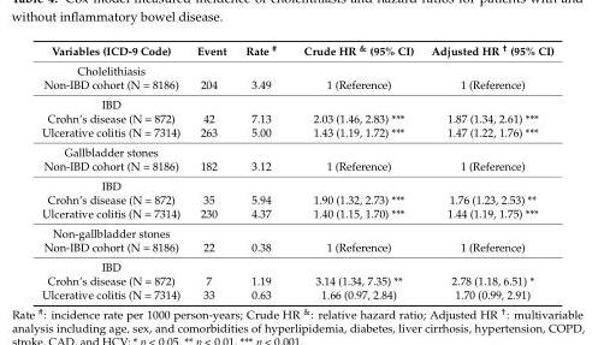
<table><thead><tr><td>Variables (ICD-9 Code)</td><td>Event</td><td>Rate <sup>#</sup></td><td>Crude HR <sup>&amp;</sup> (95% CI)</td><td>Adjusted HR <sup>†</sup> (95% CI)</td></tr></thead><tbody><tr><td colspan="5">Cholelithiasis</td></tr><tr><td>Non-IBD cohort (N = 8186)</td><td>204</td><td>3.49</td><td>1 (Reference)</td><td>1 (Reference)</td></tr><tr><td colspan="5">IBD</td></tr><tr><td>Crohn’s disease (N = 872)</td><td>42</td><td>7.13</td><td>2.03 (1.46, 2.83) ***</td><td>1.87 (1.34, 2.61) ***</td></tr><tr><td>Ulcerative colitis (N = 7314)</td><td>263</td><td>5.00</td><td>1.43 (1.19, 1.72) ***</td><td>1.47 (1.22, 1.76) ***</td></tr><tr><td colspan="5">Gallbladder stones</td></tr><tr><td>Non-IBD cohort (N = 8186)</td><td>182</td><td>3.12</td><td>1 (Reference)</td><td>1 (Reference)</td></tr><tr><td colspan="5">IBD</td></tr><tr><td>Crohn’s disease (N = 872)</td><td>35</td><td>5.94</td><td>1.90 (1.32, 2.73) ***</td><td>1.76 (1.23, 2.53) **</td></tr><tr><td>Ulcerative colitis (N = 7314)</td><td>230</td><td>4.37</td><td>1.40 (1.15, 1.70) ***</td><td>1.44 (1.19, 1.75) ***</td></tr><tr><td colspan="5">Non-gallbladder stones</td></tr><tr><td>Non-IBD cohort (N = 8186)</td><td>22</td><td>0.38</td><td>1 (Reference)</td><td>1 (Reference)</td></tr><tr><td colspan="5">IBD</td></tr><tr><td>Crohn’s disease (N = 872)</td><td>7</td><td>1.19</td><td>3.14 (1.34, 7.35) **</td><td>2.78 (1.18, 6.51) *</td></tr><tr><td>Ulcerative colitis (N = 7314)</td><td>33</td><td>0.63</td><td>1.66 (0.97, 2.84)</td><td>1.70 (0.99, 2.91)</td></tr></tbody></table>